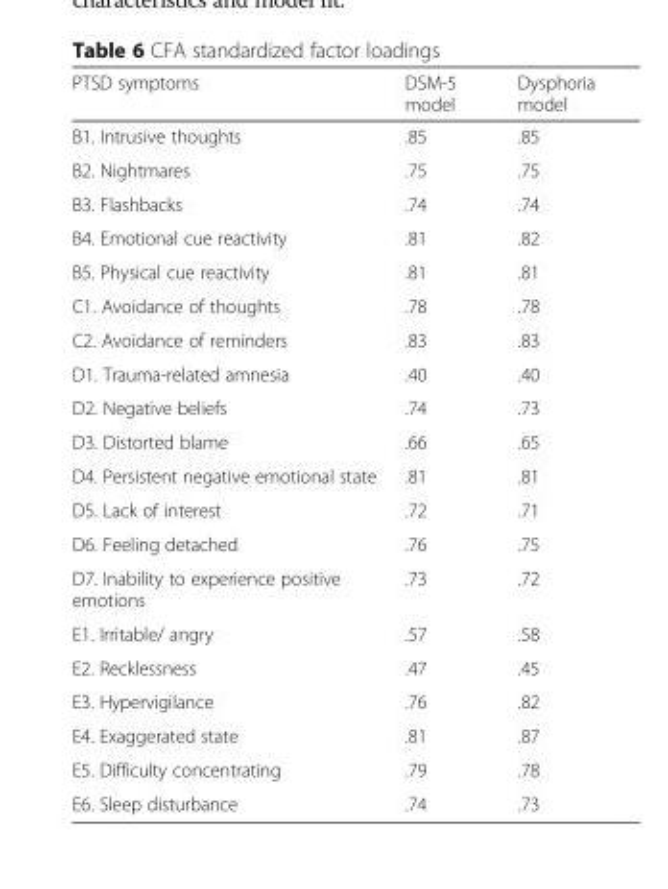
<table><thead><tr><td>PTSD symptoms</td><td>DSM-5 model</td><td>Dysphoria model</td></tr></thead><tbody><tr><td>B1. Intrusive thoughts</td><td>.85</td><td>.85</td></tr><tr><td>B2. Nightmares</td><td>.75</td><td>.75</td></tr><tr><td>B3. Flashbacks</td><td>.74</td><td>.74</td></tr><tr><td>B4. Emotional cue reactivity</td><td>.81</td><td>.82</td></tr><tr><td>B5. Physical cue reactivity</td><td>.81</td><td>.81</td></tr><tr><td>C1. Avoidance of thoughts</td><td>.78</td><td>.78</td></tr><tr><td>C2. Avoidance of reminders</td><td>.83</td><td>.83</td></tr><tr><td>D1. Trauma-related amnesia</td><td>.40</td><td>.40</td></tr><tr><td>D2. Negative beliefs</td><td>.74</td><td>.73</td></tr><tr><td>D3. Distorted blame</td><td>.66</td><td>.65</td></tr><tr><td>D4. Persistent negative emotional state</td><td>.81</td><td>.81</td></tr><tr><td>D5. Lack of interest</td><td>.72</td><td>.71</td></tr><tr><td>D6. Feeling detached</td><td>.76</td><td>.75</td></tr><tr><td>D7. Inability to experience positive emotions</td><td>.73</td><td>.72</td></tr><tr><td>E1. Irritable/ angry</td><td>.57</td><td>.58</td></tr><tr><td>E2. Recklessness</td><td>.47</td><td>.45</td></tr><tr><td>E3. Hypervigilance</td><td>.76</td><td>.82</td></tr><tr><td>E4. Exaggerated state</td><td>.81</td><td>.87</td></tr><tr><td>E5. Difficulty concentrating</td><td>.79</td><td>.78</td></tr><tr><td>E6. Sleep disturbance</td><td>.74</td><td>.73</td></tr></tbody></table>